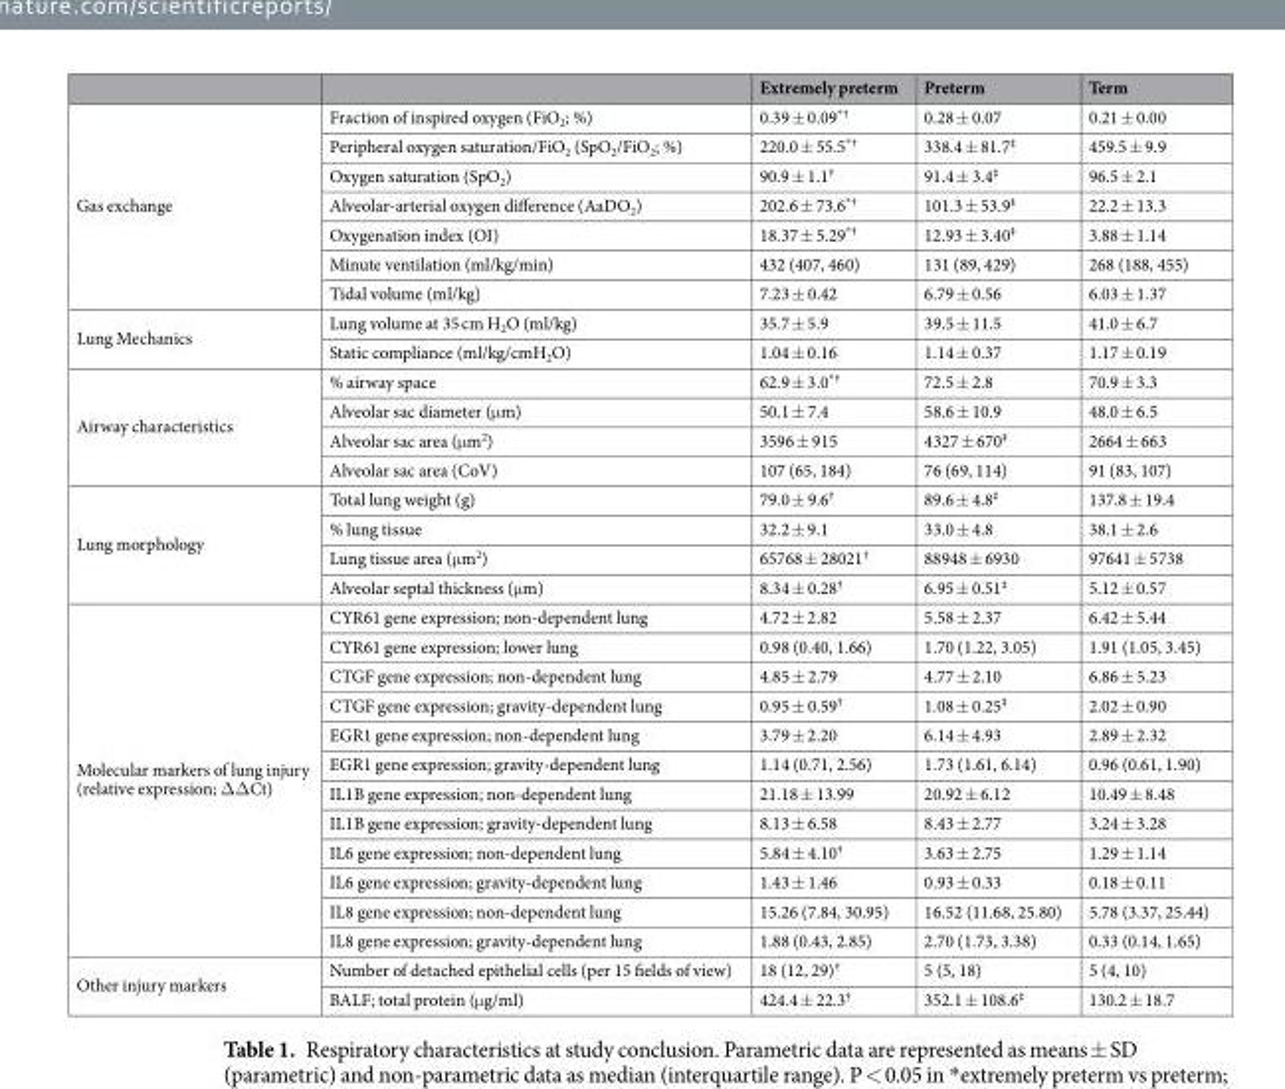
<table><thead><tr><td></td><td></td><td>Extremely preterm</td><td>Preterm</td><td>Term</td></tr></thead><tbody><tr><td rowspan="7">Gas exchange</td><td>Fraction of inspired oxygen (FiO<sub>2</sub>; %)</td><td>0.39 ± 0.09<sup>*†</sup></td><td>0.28 ± 0.07</td><td>0.21 ± 0.00</td></tr><tr><td>Peripheral oxygen saturation/FiO<sub>2</sub> (SpO<sub>2</sub>/FiO<sub>2</sub>; %)</td><td>220.0 ± 55.5<sup>*†</sup></td><td>338.4 ± 81.7<sup>‡</sup></td><td>459.5 ± 9.9</td></tr><tr><td>Oxygen saturation (SpO<sub>2</sub>)</td><td>90.9 ± 1.1<sup>†</sup></td><td>91.4 ± 3.4<sup>‡</sup></td><td>96.5 ± 2.1</td></tr><tr><td>Alveolar-arterial oxygen difference (AaDO<sub>2</sub>)</td><td>202.6 ± 73.6<sup>*†</sup></td><td>101.3 ± 53.9<sup>‡</sup></td><td>22.2 ± 13.3</td></tr><tr><td>Oxygenation index (OI)</td><td>18.37 ± 5.29<sup>*†</sup></td><td>12.93 ± 3.40<sup>‡</sup></td><td>3.88 ± 1.14</td></tr><tr><td>Minute ventilation (ml/kg/min)</td><td>432 (407, 460)</td><td>131 (89, 429)</td><td>268 (188, 455)</td></tr><tr><td>Tidal volume (ml/kg)</td><td>7.23 ± 0.42</td><td>6.79 ± 0.56</td><td>6.03 ± 1.37</td></tr><tr><td rowspan="2">Lung Mechanics</td><td>Lung volume at 35 cm H<sub>2</sub>O (ml/kg)</td><td>35.7 ± 5.9</td><td>39.5 ± 11.5</td><td>41.0 ± 6.7</td></tr><tr><td>Static compliance (ml/kg/cmH<sub>2</sub>O)</td><td>1.04 ± 0.16</td><td>1.14 ± 0.37</td><td>1.17 ± 0.19</td></tr><tr><td rowspan="4">Airway characteristics</td><td>% airway space</td><td>62.9 ± 3.0<sup>*†</sup></td><td>72.5 ± 2.8</td><td>70.9 ± 3.3</td></tr><tr><td>Alveolar sac diameter (μm)</td><td>50.1 ± 7.4</td><td>58.6 ± 10.9</td><td>48.0 ± 6.5</td></tr><tr><td>Alveolar sac area (μm<sup>2</sup>)</td><td>3596 ± 915</td><td>4327 ± 670<sup>‡</sup></td><td>2664 ± 663</td></tr><tr><td>Alveolar sac area (CoV)</td><td>107 (65, 184)</td><td>76 (69, 114)</td><td>91 (83, 107)</td></tr><tr><td rowspan="4">Lung morphology</td><td>Total lung weight (g)</td><td>79.0 ± 9.6<sup>†</sup></td><td>89.6 ± 4.8<sup>‡</sup></td><td>137.8 ± 19.4</td></tr><tr><td>% lung tissue</td><td>32.2 ± 9.1</td><td>33.0 ± 4.8</td><td>38.1 ± 2.6</td></tr><tr><td>Lung tissue area (μm<sup>2</sup>)</td><td>65768 ± 28021<sup>†</sup></td><td>88948 ± 6930</td><td>97641 ± 5738</td></tr><tr><td>Alveolar septal thickness (μm)</td><td>8.34 ± 0.28<sup>†</sup></td><td>6.95 ± 0.51<sup>‡</sup></td><td>5.12 ± 0.57</td></tr><tr><td rowspan="12">Molecular markers of lung injury (relative expression; ΔΔCt)</td><td>CYR61 gene expression; non-dependent lung</td><td>4.72 ± 2.82</td><td>5.58 ± 2.37</td><td>6.42 ± 5.44</td></tr><tr><td>CYR61 gene expression; lower lung</td><td>0.98 (0.40, 1.66)</td><td>1.70 (1.22, 3.05)</td><td>1.91 (1.05, 3.45)</td></tr><tr><td>CTGF gene expression; non-dependent lung</td><td>4.85 ± 2.79</td><td>4.77 ± 2.10</td><td>6.86 ± 5.23</td></tr><tr><td>CTGF gene expression; gravity-dependent lung</td><td>0.95 ± 0.59<sup>†</sup></td><td>1.08 ± 0.25<sup>‡</sup></td><td>2.02 ± 0.90</td></tr><tr><td>EGR1 gene expression; non-dependent lung</td><td>3.79 ± 2.20</td><td>6.14 ± 4.93</td><td>2.89 ± 2.32</td></tr><tr><td>EGR1 gene expression; gravity-dependent lung</td><td>1.14 (0.71, 2.56)</td><td>1.73 (1.61, 6.14)</td><td>0.96 (0.61, 1.90)</td></tr><tr><td>IL1B gene expression; non-dependent lung</td><td>21.18 ± 13.99</td><td>20.92 ± 6.12</td><td>10.49 ± 8.48</td></tr><tr><td>IL1B gene expression; gravity-dependent lung</td><td>8.13 ± 6.58</td><td>8.43 ± 2.77</td><td>3.24 ± 3.28</td></tr><tr><td>IL6 gene expression; non-dependent lung</td><td>5.84 ± 4.10<sup>†</sup></td><td>3.63 ± 2.75</td><td>1.29 ± 1.14</td></tr><tr><td>IL6 gene expression; gravity-dependent lung</td><td>1.43 ± 1.46</td><td>0.93 ± 0.33</td><td>0.18 ± 0.11</td></tr><tr><td>IL8 gene expression; non-dependent lung</td><td>15.26 (7.84, 30.95)</td><td>16.52 (11.68, 25.80)</td><td>5.78 (3.37, 25.44)</td></tr><tr><td>IL8 gene expression; gravity-dependent lung</td><td>1.88 (0.43, 2.85)</td><td>2.70 (1.73, 3.38)</td><td>0.33 (0.14, 1.65)</td></tr><tr><td rowspan="2">Other injury markers</td><td>Number of detached epithelial cells (per 15 fields of view)</td><td>18 (12, 29)<sup>†</sup></td><td>5 (5, 18)</td><td>5 (4, 10)</td></tr><tr><td>BALF; total protein (μg/ml)</td><td>424.4 ± 22.3<sup>†</sup></td><td>352.1 ± 108.6<sup>‡</sup></td><td>130.2 ± 18.7</td></tr></tbody></table>